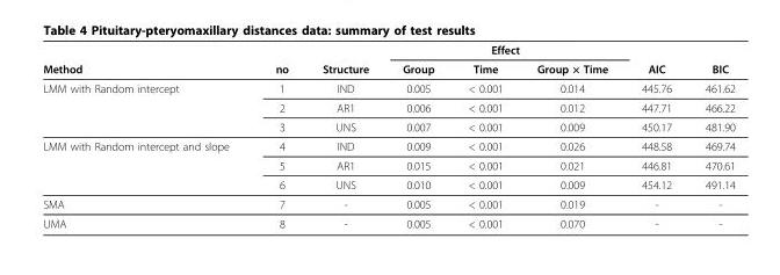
<table><thead><tr><td rowspan="2">Method</td><td rowspan="2">no</td><td rowspan="2">Structure</td><td colspan="3">Effect</td><td rowspan="2">AIC</td><td rowspan="2">BIC</td></tr><tr><td>Group</td><td>Time</td><td>Group × Time</td></tr></thead><tbody><tr><td rowspan="3">LMM with Random intercept</td><td>1</td><td>IND</td><td>0.005</td><td>&lt; 0.001</td><td>0.014</td><td>445.76</td><td>461.62</td></tr><tr><td>2</td><td>AR1</td><td>0.006</td><td>&lt; 0.001</td><td>0.012</td><td>447.71</td><td>466.22</td></tr><tr><td>3</td><td>UNS</td><td>0.007</td><td>&lt; 0.001</td><td>0.009</td><td>450.17</td><td>481.90</td></tr><tr><td rowspan="3">LMM with Random intercept and slope</td><td>4</td><td>IND</td><td>0.009</td><td>&lt; 0.001</td><td>0.026</td><td>448.58</td><td>469.74</td></tr><tr><td>5</td><td>AR1</td><td>0.015</td><td>&lt; 0.001</td><td>0.021</td><td>446.81</td><td>470.61</td></tr><tr><td>6</td><td>UNS</td><td>0.010</td><td>&lt; 0.001</td><td>0.009</td><td>454.12</td><td>491.14</td></tr><tr><td>SMA</td><td>7</td><td>-</td><td>0.005</td><td>&lt; 0.001</td><td>0.019</td><td>-</td><td>-</td></tr><tr><td>UMA</td><td>8</td><td>-</td><td>0.005</td><td>&lt; 0.001</td><td>0.070</td><td>-</td><td>-</td></tr></tbody></table>